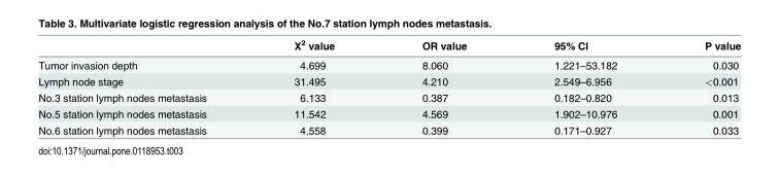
<table><thead><tr><td></td><td>X<sup>2</sup> value</td><td>OR value</td><td>95% CI</td><td>P value</td></tr></thead><tbody><tr><td>Tumor invasion depth</td><td>4.699</td><td>8.060</td><td>1.221–53.182</td><td>0.030</td></tr><tr><td>Lymph node stage</td><td>31.495</td><td>4.210</td><td>2.549–6.956</td><td>&lt;0.001</td></tr><tr><td>No.3 station lymph nodes metastasis</td><td>6.133</td><td>0.387</td><td>0.182–0.820</td><td>0.013</td></tr><tr><td>No.5 station lymph nodes metastasis</td><td>11.542</td><td>4.569</td><td>1.902–10.976</td><td>0.001</td></tr><tr><td>No.6 station lymph nodes metastasis</td><td>4.558</td><td>0.399</td><td>0.171–0.927</td><td>0.033</td></tr></tbody></table>